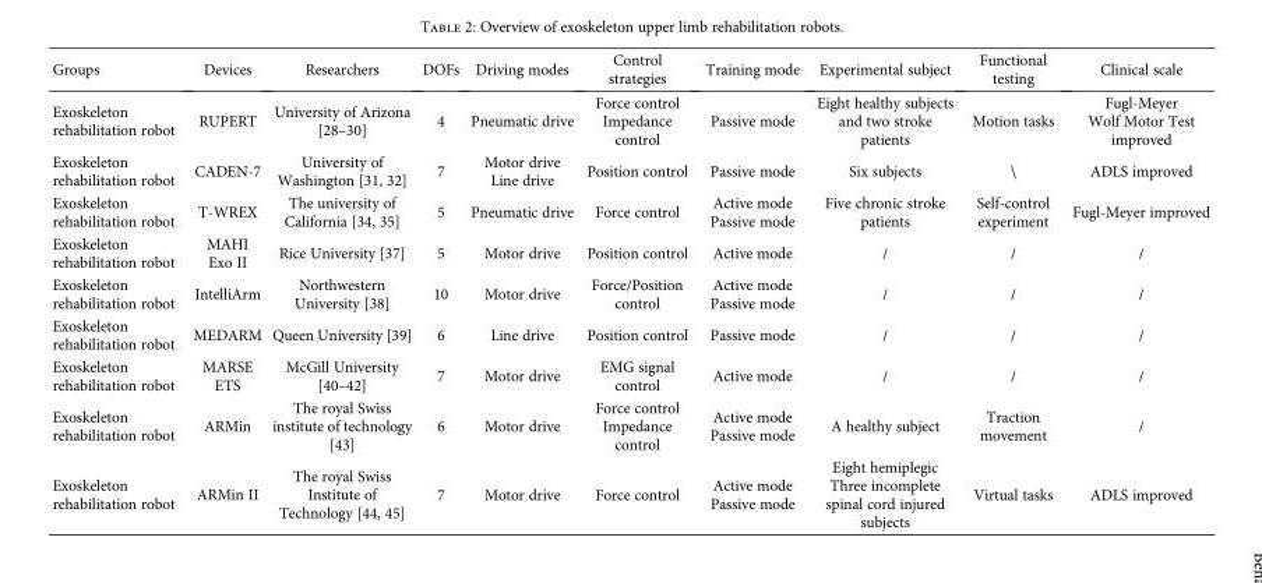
<table><thead><tr><td>Groups</td><td>Devices</td><td>Researchers</td><td>DOFs</td><td>Driving modes</td><td>Control strategies</td><td>Training mode</td><td>Experimental subject</td><td>Functional testing</td><td>Clinical scale</td></tr></thead><tbody><tr><td>Exoskeleton rehabilitation robot</td><td>RUPERT</td><td>University of Arizona [28–30]</td><td>4</td><td>Pneumatic drive</td><td>Force control Impedance control</td><td>Passive mode</td><td>Eight healthy subjects and two stroke patients</td><td>Motion tasks</td><td>Fugl-Meyer Wolf Motor Test improved</td></tr><tr><td>Exoskeleton rehabilitation robot</td><td>CADEN-7</td><td>University of Washington [31, 32]</td><td>7</td><td>Motor drive Line drive</td><td>Position control</td><td>Passive mode</td><td>Six subjects</td><td>\</td><td>ADLS improved</td></tr><tr><td>Exoskeleton rehabilitation robot</td><td>T-WREX</td><td>The university of California [34, 35]</td><td>5</td><td>Pneumatic drive</td><td>Force control</td><td>Active mode Passive mode</td><td>Five chronic stroke patients</td><td>Self-control experiment</td><td>Fugl-Meyer improved</td></tr><tr><td>Exoskeleton rehabilitation robot</td><td>MAHI Exo II</td><td>Rice University [37]</td><td>5</td><td>Motor drive</td><td>Position control</td><td>Active mode</td><td>/</td><td>/</td><td>/</td></tr><tr><td>Exoskeleton rehabilitation robot</td><td>IntelliArm</td><td>Northwestern University [38]</td><td>10</td><td>Motor drive</td><td>Force/Position control</td><td>Active mode Passive mode</td><td>/</td><td>/</td><td>/</td></tr><tr><td>Exoskeleton rehabilitation robot</td><td>MEDARM</td><td>Queen University [39]</td><td>6</td><td>Line drive</td><td>Position control</td><td>Passive mode</td><td>/</td><td>/</td><td>/</td></tr><tr><td>Exoskeleton rehabilitation robot</td><td>MARSE ETS</td><td>McGill University [40–42]</td><td>7</td><td>Motor drive</td><td>EMG signal control</td><td>Active mode</td><td>/</td><td>/</td><td>/</td></tr><tr><td>Exoskeleton rehabilitation robot</td><td>ARMin</td><td>The royal Swiss institute of technology [43]</td><td>6</td><td>Motor drive</td><td>Force control Impedance control</td><td>Active mode Passive mode</td><td>A healthy subject</td><td>Traction movement</td><td>/</td></tr><tr><td>Exoskeleton rehabilitation robot</td><td>ARMin II</td><td>The royal Swiss Institute of Technology [44, 45]</td><td>7</td><td>Motor drive</td><td>Force control</td><td>Active mode Passive mode</td><td>Eight hemiplegic Three incomplete spinal cord injured subjects</td><td>Virtual tasks</td><td>ADLS improved</td></tr></tbody></table>